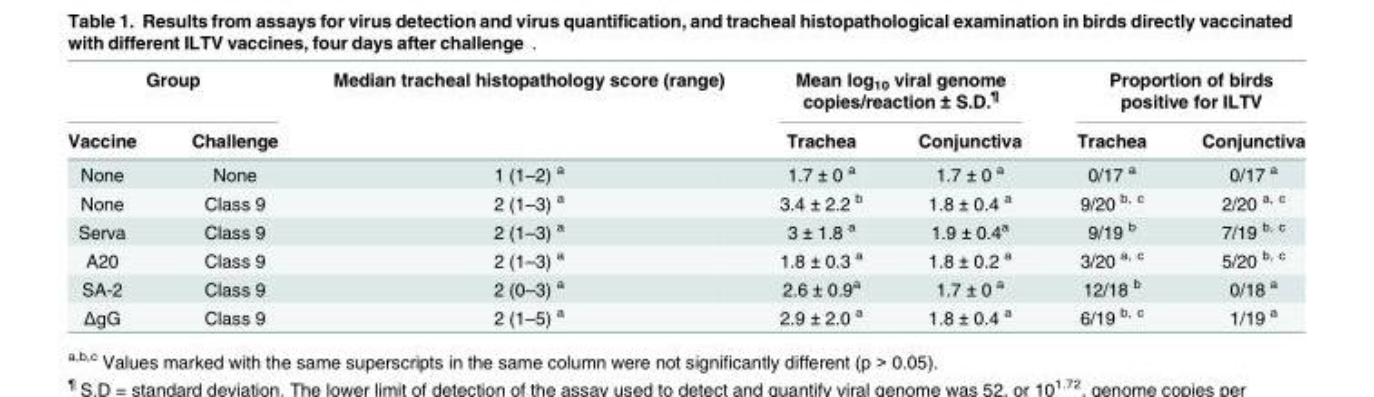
<table><thead><tr><td colspan="2">Group</td><td rowspan="2">Median tracheal histopathology score (range)</td><td colspan="2">Mean log<sub>10</sub> viral genome copies/reaction ± S.D.<sup>¶</sup></td><td colspan="2">Proportion of birds positive for ILTV</td></tr><tr><td>Vaccine</td><td>Challenge</td><td>Trachea</td><td>Conjunctiva</td><td>Trachea</td><td>Conjunctiva</td></tr></thead><tbody><tr><td>None</td><td>None</td><td>1 (1–2) <sup>a</sup></td><td>1.7 ± 0 <sup>a</sup></td><td>1.7 ± 0 <sup>a</sup></td><td>0/17 <sup>a</sup></td><td>0/17 <sup>a</sup></td></tr><tr><td>None</td><td>Class 9</td><td>2 (1–3) <sup>a</sup></td><td>3.4 ± 2.2 <sup>b</sup></td><td>1.8 ± 0.4 <sup>a</sup></td><td>9/20 <sup>b, c</sup></td><td>2/20 <sup>a, c</sup></td></tr><tr><td>Serva</td><td>Class 9</td><td>2 (1–3) <sup>a</sup></td><td>3 ± 1.8 <sup>a</sup></td><td>1.9 ± 0.4<sup>a</sup></td><td>9/19 <sup>b</sup></td><td>7/19 <sup>b, c</sup></td></tr><tr><td>A20</td><td>Class 9</td><td>2 (1–3) <sup>a</sup></td><td>1.8 ± 0.3 <sup>a</sup></td><td>1.8 ± 0.2 <sup>a</sup></td><td>3/20 <sup>a, c</sup></td><td>5/20 <sup>b, c</sup></td></tr><tr><td>SA-2</td><td>Class 9</td><td>2 (0–3) <sup>a</sup></td><td>2.6 ± 0.9<sup>a</sup></td><td>1.7 ± 0 <sup>a</sup></td><td>12/18 <sup>b</sup></td><td>0/18 <sup>a</sup></td></tr><tr><td>ΔgG</td><td>Class 9</td><td>2 (1–5) <sup>a</sup></td><td>2.9 ± 2.0 <sup>a</sup></td><td>1.8 ± 0.4 <sup>a</sup></td><td>6/19 <sup>b, c</sup></td><td>1/19 <sup>a</sup></td></tr></tbody></table>